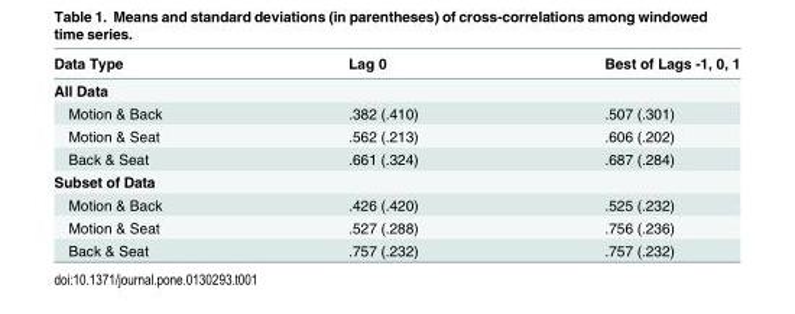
<table><thead><tr><td>Data Type</td><td>Lag 0</td><td>Best of Lags -1, 0, 1</td></tr></thead><tbody><tr><td colspan="3">All Data</td></tr><tr><td>Motion &amp; Back</td><td>.382 (.410)</td><td>.507 (.301)</td></tr><tr><td>Motion &amp; Seat</td><td>.562 (.213)</td><td>.606 (.202)</td></tr><tr><td>Back &amp; Seat</td><td>.661 (.324)</td><td>.687 (.284)</td></tr><tr><td colspan="3">Subset of Data</td></tr><tr><td>Motion &amp; Back</td><td>.426 (.420)</td><td>.525 (.232)</td></tr><tr><td>Motion &amp; Seat</td><td>.527 (.288)</td><td>.756 (.236)</td></tr><tr><td>Back &amp; Seat</td><td>.757 (.232)</td><td>.757 (.232)</td></tr></tbody></table>